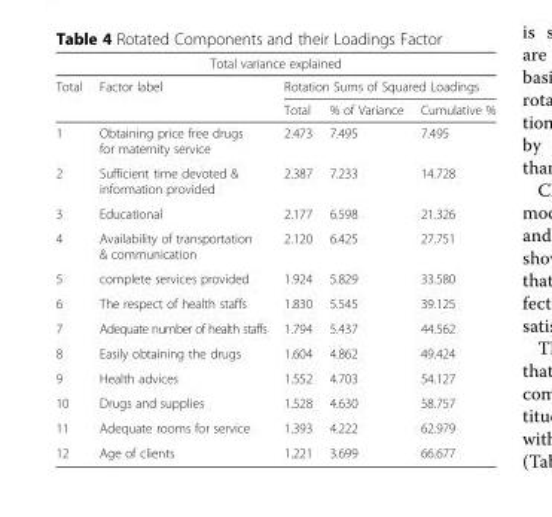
<table><thead><tr><td colspan="5">Total variance explained</td></tr><tr><td rowspan="2">Total</td><td rowspan="2">Factor label</td><td colspan="3">Rotation Sums of Squared Loadings</td></tr><tr><td>Total</td><td>% of Variance</td><td>Cumulative %</td></tr></thead><tbody><tr><td>1</td><td>Obtaining price free drugs for maternity service</td><td>2.473</td><td>7.495</td><td>7.495</td></tr><tr><td>2</td><td>Sufficient time devoted &amp; information provided</td><td>2.387</td><td>7.233</td><td>14.728</td></tr><tr><td>3</td><td>Educational</td><td>2.177</td><td>6.598</td><td>21.326</td></tr><tr><td>4</td><td>Availability of transportation &amp; communication</td><td>2.120</td><td>6.425</td><td>27.751</td></tr><tr><td>5</td><td>complete services provided</td><td>1.924</td><td>5.829</td><td>33.580</td></tr><tr><td>6</td><td>The respect of health staffs</td><td>1.830</td><td>5.545</td><td>39.125</td></tr><tr><td>7</td><td>Adequate number of health staffs</td><td>1.794</td><td>5.437</td><td>44.562</td></tr><tr><td>8</td><td>Easily obtaining the drugs</td><td>1.604</td><td>4.862</td><td>49.424</td></tr><tr><td>9</td><td>Health advices</td><td>1.552</td><td>4.703</td><td>54.127</td></tr><tr><td>10</td><td>Drugs and supplies</td><td>1.528</td><td>4.630</td><td>58.757</td></tr><tr><td>11</td><td>Adequate rooms for service</td><td>1.393</td><td>4.222</td><td>62.979</td></tr><tr><td>12</td><td>Age of clients</td><td>1.221</td><td>3.699</td><td>66.677</td></tr></tbody></table>